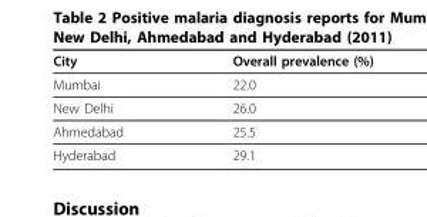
<table><thead><tr><td>City</td><td>Overall prevalence (%)</td></tr></thead><tbody><tr><td>Mumbai</td><td>22.0</td></tr><tr><td>New Delhi</td><td>26.0</td></tr><tr><td>Ahmedabad</td><td>25.5</td></tr><tr><td>Hyderabad</td><td>29.1</td></tr></tbody></table>